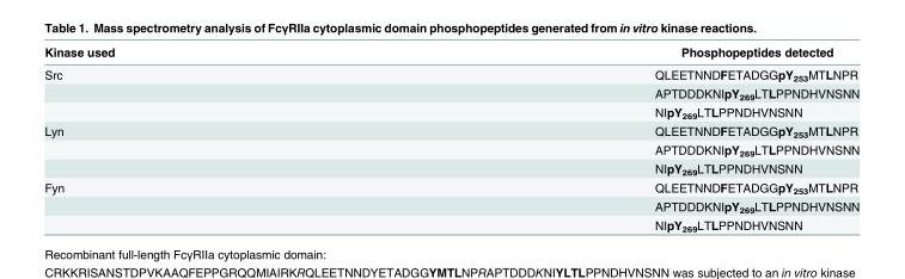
<table><thead><tr><td>Kinase used</td><td>Phosphopeptides detected</td></tr></thead><tbody><tr><td rowspan="3">Src</td><td>QLEETNNDFETADGGpY<sub>253</sub>MTLNPR</td></tr><tr><td>APTDDDKNIpY<sub>269</sub>LTLPPNDHVNSNN</td></tr><tr><td>NIpY<sub>269</sub>LTLPPNDHVNSNN</td></tr><tr><td rowspan="3">Lyn</td><td>QLEETNNDFETADGGpY<sub>253</sub>MTLNPR</td></tr><tr><td>APTDDDKNIpY<sub>269</sub>LTLPPNDHVNSNN</td></tr><tr><td>NIpY<sub>269</sub>LTLPPNDHVNSNN</td></tr><tr><td rowspan="3">Fyn</td><td>QLEETNNDFETADGGpY<sub>253</sub>MTLNPR</td></tr><tr><td>APTDDDKNIpY<sub>269</sub>LTLPPNDHVNSNN</td></tr><tr><td>NIpY<sub>269</sub>LTLPPNDHVNSNN</td></tr></tbody></table>